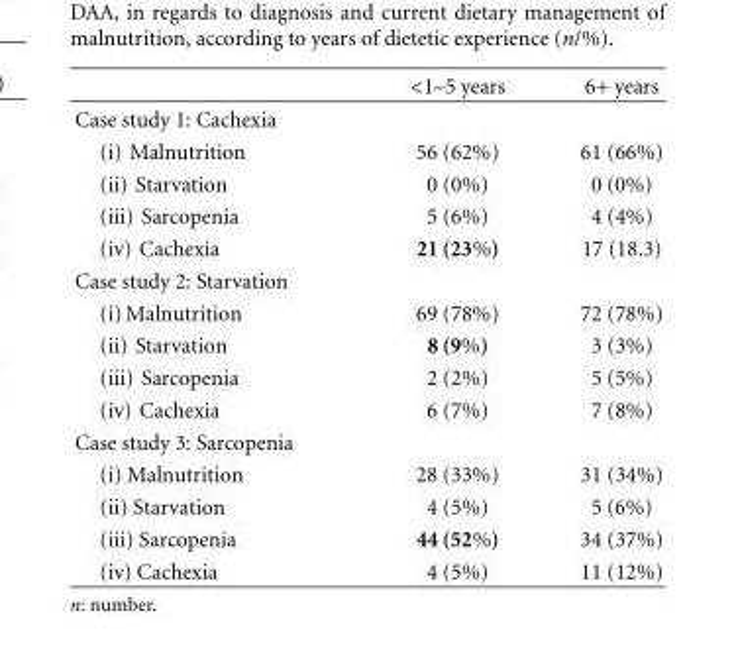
<table><thead><tr><td></td><td>&lt;1–5 years</td><td>6+ years</td></tr></thead><tbody><tr><td colspan="3">Case study 1: Cachexia</td></tr><tr><td>(i) Malnutrition</td><td>56 (62%)</td><td>61 (66%)</td></tr><tr><td>(ii) Starvation</td><td>0 (0%)</td><td>0 (0%)</td></tr><tr><td>(iii) Sarcopenia</td><td>5 (6%)</td><td>4 (4%)</td></tr><tr><td>(iv) Cachexia</td><td>21 (23%)</td><td>17 (18.3)</td></tr><tr><td colspan="3">Case study 2: Starvation</td></tr><tr><td>(i) Malnutrition</td><td>69 (78%)</td><td>72 (78%)</td></tr><tr><td>(ii) Starvation</td><td>8 (9%)</td><td>3 (3%)</td></tr><tr><td>(iii) Sarcopenia</td><td>2 (2%)</td><td>5 (5%)</td></tr><tr><td>(iv) Cachexia</td><td>6 (7%)</td><td>7 (8%)</td></tr><tr><td colspan="3">Case study 3: Sarcopenia</td></tr><tr><td>(i) Malnutrition</td><td>28 (33%)</td><td>31 (34%)</td></tr><tr><td>(ii) Starvation</td><td>4 (5%)</td><td>5 (6%)</td></tr><tr><td>(iii) Sarcopenia</td><td>44 (52%)</td><td>34 (37%)</td></tr><tr><td>(iv) Cachexia</td><td>4 (5%)</td><td>11 (12%)</td></tr></tbody></table>